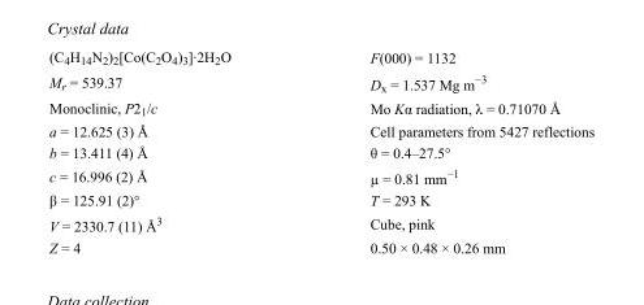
<table><tbody><tr><td>(C<sub>4</sub>H<sub>14</sub>N<sub>2</sub>)<sub>2</sub>[Co(C<sub>2</sub>O<sub>4</sub>)<sub>3</sub>]·2H<sub>2</sub>O</td><td>F(000) = 1132</td></tr><tr><td>M<sub>r</sub> = 539.37</td><td>D<sub>x</sub> = 1.537 Mg m<sup>−3</sup></td></tr><tr><td>Monoclinic, P2<sub>1</sub>/c</td><td>Mo Kα radiation, λ = 0.71070 Å</td></tr><tr><td>a = 12.625 (3) Å</td><td>Cell parameters from 5427 reflections</td></tr><tr><td>b = 13.411 (4) Å</td><td>θ = 0.4–27.5°</td></tr><tr><td>c = 16.996 (2) Å</td><td>µ = 0.81 mm<sup>−1</sup></td></tr><tr><td>β = 125.91 (2)°</td><td>T = 293 K</td></tr><tr><td>V = 2330.7 (11) Å<sup>3</sup></td><td>Cube, pink</td></tr><tr><td>Z = 4</td><td>0.50 × 0.48 × 0.26 mm</td></tr></tbody></table>